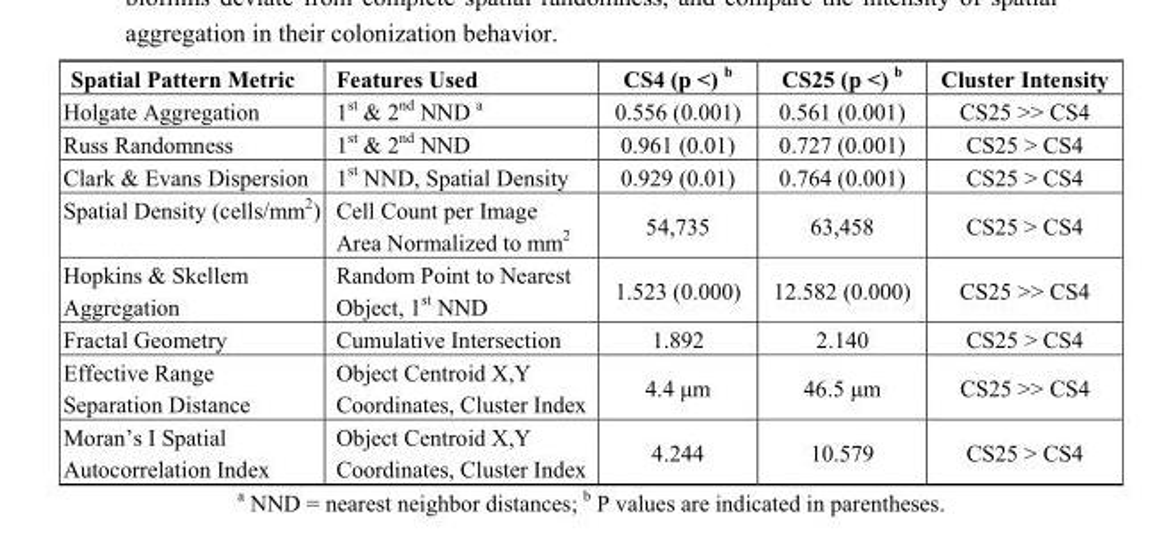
<table><thead><tr><td>Spatial Pattern Metric</td><td>Features Used</td><td>CS4 (p &lt;) <sup>b</sup></td><td>CS25 (p &lt;) <sup>b</sup></td><td>Cluster Intensity</td></tr></thead><tbody><tr><td>Holgate Aggregation</td><td>1<sup>st</sup> &amp; 2<sup>nd</sup> NND <sup>a</sup></td><td>0.556 (0.001)</td><td>0.561 (0.001)</td><td>CS25 &gt;&gt; CS4</td></tr><tr><td>Russ Randomness</td><td>1<sup>st</sup> &amp; 2<sup>nd</sup> NND</td><td>0.961 (0.01)</td><td>0.727 (0.001)</td><td>CS25 &gt; CS4</td></tr><tr><td>Clark &amp; Evans Dispersion</td><td>1<sup>st</sup> NND, Spatial Density</td><td>0.929 (0.01)</td><td>0.764 (0.001)</td><td>CS25 &gt; CS4</td></tr><tr><td>Spatial Density (cells/mm<sup>2</sup>)</td><td>Cell Count per Image Area Normalized to mm<sup>2</sup></td><td>54,735</td><td>63,458</td><td>CS25 &gt; CS4</td></tr><tr><td>Hopkins &amp; Skellem Aggregation</td><td>Random Point to Nearest Object, 1<sup>st</sup> NND</td><td>1.523 (0.000)</td><td>12.582 (0.000)</td><td>CS25 &gt;&gt; CS4</td></tr><tr><td>Fractal Geometry</td><td>Cumulative Intersection</td><td>1.892</td><td>2.140</td><td>CS25 &gt; CS4</td></tr><tr><td>Effective Range Separation Distance</td><td>Object Centroid X,Y Coordinates, Cluster Index</td><td>4.4 μm</td><td>46.5 μm</td><td>CS25 &gt;&gt; CS4</td></tr><tr><td>Moran’s I Spatial Autocorrelation Index</td><td>Object Centroid X,Y Coordinates, Cluster Index</td><td>4.244</td><td>10.579</td><td>CS25 &gt; CS4</td></tr></tbody></table>